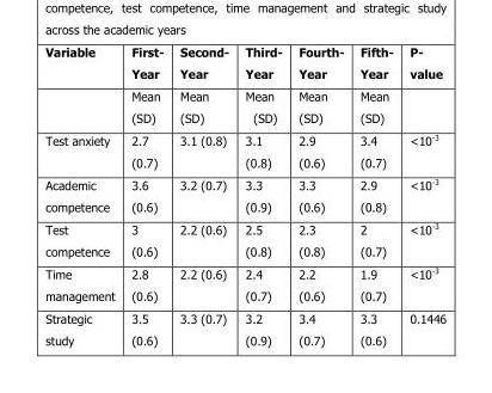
<table><thead><tr><td>Variable</td><td>First- Year</td><td>Second- Year</td><td>Third- Year</td><td>Fourth- Year</td><td>Fifth- Year</td><td>P- value</td></tr></thead><tbody><tr><td></td><td>Mean (SD)</td><td>Mean (SD)</td><td>Mean (SD)</td><td>Mean (SD)</td><td>Mean (SD)</td><td></td></tr><tr><td>Test anxiety</td><td>2.7 (0.7)</td><td>3.1 (0.8)</td><td>3.1 (0.8)</td><td>2.9 (0.6)</td><td>3.4 (0.7)</td><td>&lt;10<sup>-3</sup></td></tr><tr><td>Academic competence</td><td>3.6 (0.6)</td><td>3.2 (0.7)</td><td>3.3 (0.9)</td><td>3.3 (0.6)</td><td>2.9 (0.8)</td><td>&lt;10<sup>-3</sup></td></tr><tr><td>Test competence</td><td>3 (0.6)</td><td>2.2 (0.6)</td><td>2.5 (0.8)</td><td>2.3 (0.8)</td><td>2 (0.7)</td><td>&lt;10<sup>-3</sup></td></tr><tr><td>Time management</td><td>2.8 (0.6)</td><td>2.2 (0.6)</td><td>2.4 (0.7)</td><td>2.2 (0.6)</td><td>1.9 (0.7)</td><td>&lt;10<sup>-3</sup></td></tr><tr><td>Strategic study</td><td>3.5 (0.6)</td><td>3.3 (0.7)</td><td>3.2 (0.9)</td><td>3.4 (0.7)</td><td>3.3 (0.6)</td><td>0.1446</td></tr></tbody></table>